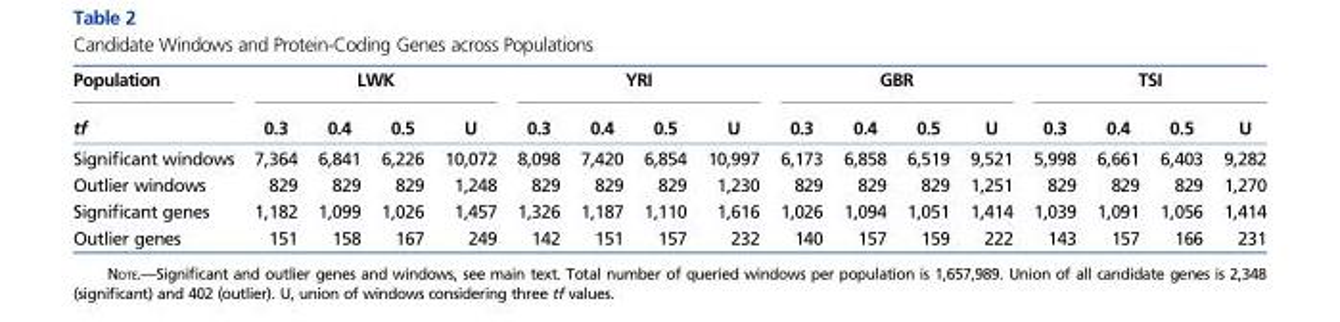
<table><thead><tr><td rowspan="2">Population tf</td><td colspan="4">LWK</td><td colspan="4">YRI</td><td colspan="4">GBR</td><td colspan="4">TSI</td></tr><tr><td>0.3</td><td>0.4</td><td>0.5</td><td>U</td><td>0.3</td><td>0.4</td><td>0.5</td><td>U</td><td>0.3</td><td>0.4</td><td>0.5</td><td>U</td><td>0.3</td><td>0.4</td><td>0.5</td><td>U</td></tr></thead><tbody><tr><td>Significant windows</td><td>7,364</td><td>6,841</td><td>6,226</td><td>10,072</td><td>8,098</td><td>7,420</td><td>6,854</td><td>10,997</td><td>6,173</td><td>6,858</td><td>6,519</td><td>9,521</td><td>5,998</td><td>6,661</td><td>6,403</td><td>9,282</td></tr><tr><td>Outlier windows</td><td>829</td><td>829</td><td>829</td><td>1,248</td><td>829</td><td>829</td><td>829</td><td>1,230</td><td>829</td><td>829</td><td>829</td><td>1,251</td><td>829</td><td>829</td><td>829</td><td>1,270</td></tr><tr><td>Significant genes</td><td>1,182</td><td>1,099</td><td>1,026</td><td>1,457</td><td>1,326</td><td>1,187</td><td>1,110</td><td>1,616</td><td>1,026</td><td>1,094</td><td>1,051</td><td>1,414</td><td>1,039</td><td>1,091</td><td>1,056</td><td>1,414</td></tr><tr><td>Outlier genes</td><td>151</td><td>158</td><td>167</td><td>249</td><td>142</td><td>151</td><td>157</td><td>232</td><td>140</td><td>157</td><td>159</td><td>222</td><td>143</td><td>157</td><td>166</td><td>231</td></tr></tbody></table>